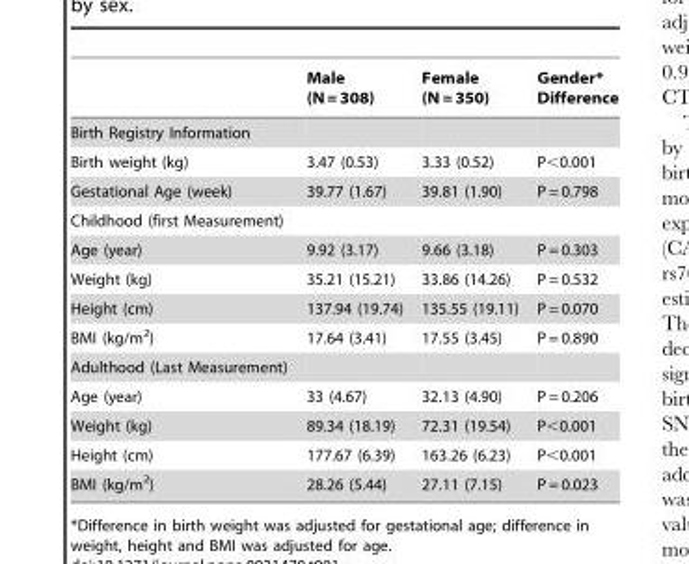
<table><thead><tr><td></td><td>Male (N = 308)</td><td>Female (N = 350)</td><td>Gender* Difference</td></tr></thead><tbody><tr><td colspan="4">Birth Registry Information</td></tr><tr><td>Birth weight (kg)</td><td>3.47 (0.53)</td><td>3.33 (0.52)</td><td>P&lt;0.001</td></tr><tr><td>Gestational Age (week)</td><td>39.77 (1.67)</td><td>39.81 (1.90)</td><td>P = 0.798</td></tr><tr><td colspan="4">Childhood (first Measurement)</td></tr><tr><td>Age (year)</td><td>9.92 (3.17)</td><td>9.66 (3.18)</td><td>P = 0.303</td></tr><tr><td>Weight (kg)</td><td>35.21 (15.21)</td><td>33.86 (14.26)</td><td>P = 0.532</td></tr><tr><td>Height (cm)</td><td>137.94 (19.74)</td><td>135.55 (19.11)</td><td>P = 0.070</td></tr><tr><td>BMI (kg/m<sup>2</sup>)</td><td>17.64 (3.41)</td><td>17.55 (3.45)</td><td>P = 0.890</td></tr><tr><td colspan="4">Adulthood (Last Measurement)</td></tr><tr><td>Age (year)</td><td>33 (4.67)</td><td>32.13 (4.90)</td><td>P = 0.206</td></tr><tr><td>Weight (kg)</td><td>89.34 (18.19)</td><td>72.31 (19.54)</td><td>P&lt;0.001</td></tr><tr><td>Height (cm)</td><td>177.67 (6.39)</td><td>163.26 (6.23)</td><td>P&lt;0.001</td></tr><tr><td>BMI (kg/m<sup>2</sup>)</td><td>28.26 (5.44)</td><td>27.11 (7.15)</td><td>P = 0.023</td></tr></tbody></table>